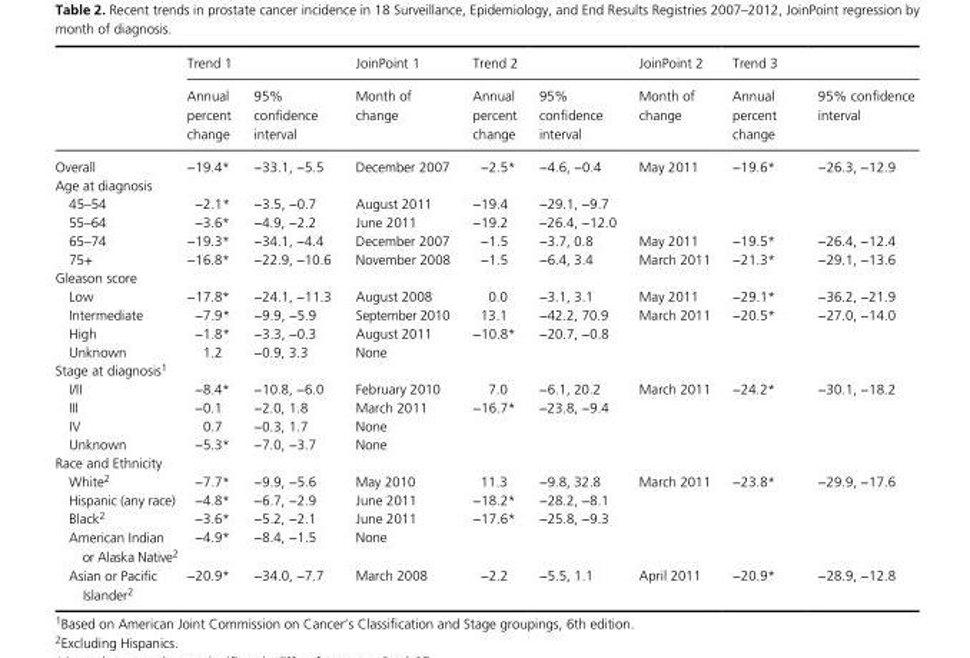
<table><thead><tr><td rowspan="2"></td><td colspan="2">Trend 1</td><td rowspan="2">JoinPoint 1 Month of change</td><td colspan="2">Trend 2</td><td rowspan="2">JoinPoint 2 Month of change</td><td colspan="2">Trend 3</td></tr><tr><td>Annual percent change</td><td>95% confidence interval</td><td>Annual percent change</td><td>95% confidence interval</td><td>Annual percent change</td><td>95% confidence interval</td></tr></thead><tbody><tr><td>Overall</td><td>−19.4*</td><td>−33.1, −5.5</td><td>December 2007</td><td>−2.5*</td><td>−4.6, −0.4</td><td>May 2011</td><td>−19.6*</td><td>−26.3, −12.9</td></tr><tr><td colspan="9">Age at diagnosis</td></tr><tr><td>45–54</td><td>−2.1*</td><td>−3.5, −0.7</td><td>August 2011</td><td>−19.4</td><td>−29.1, −9.7</td><td></td><td></td><td></td></tr><tr><td>55–64</td><td>−3.6*</td><td>−4.9, −2.2</td><td>June 2011</td><td>−19.2</td><td>−26.4, −12.0</td><td></td><td></td><td></td></tr><tr><td>65–74</td><td>−19.3*</td><td>−34.1, −4.4</td><td>December 2007</td><td>−1.5</td><td>−3.7, 0.8</td><td>May 2011</td><td>−19.5*</td><td>−26.4, −12.4</td></tr><tr><td>75+</td><td>−16.8*</td><td>−22.9, −10.6</td><td>November 2008</td><td>−1.5</td><td>−6.4, 3.4</td><td>March 2011</td><td>−21.3*</td><td>−29.1, −13.6</td></tr><tr><td colspan="9">Gleason score</td></tr><tr><td>Low</td><td>−17.8*</td><td>−24.1, −11.3</td><td>August 2008</td><td>0.0</td><td>−3.1, 3.1</td><td>May 2011</td><td>−29.1*</td><td>−36.2, −21.9</td></tr><tr><td>Intermediate</td><td>−7.9*</td><td>−9.9, −5.9</td><td>September 2010</td><td>13.1</td><td>−42.2, 70.9</td><td>March 2011</td><td>−20.5*</td><td>−27.0, −14.0</td></tr><tr><td>High</td><td>−1.8*</td><td>−3.3, −0.3</td><td>August 2011</td><td>−10.8*</td><td>−20.7, −0.8</td><td></td><td></td><td></td></tr><tr><td>Unknown</td><td>1.2</td><td>−0.9, 3.3</td><td>None</td><td></td><td></td><td></td><td></td><td></td></tr><tr><td colspan="9">Stage at diagnosis1</td></tr><tr><td>I/II</td><td>−8.4*</td><td>−10.8, −6.0</td><td>February 2010</td><td>7.0</td><td>−6.1, 20.2</td><td>March 2011</td><td>−24.2*</td><td>−30.1, −18.2</td></tr><tr><td>III</td><td>−0.1</td><td>−2.0, 1.8</td><td>March 2011</td><td>−16.7*</td><td>−23.8, −9.4</td><td></td><td></td><td></td></tr><tr><td>IV</td><td>0.7</td><td>−0.3, 1.7</td><td>None</td><td></td><td></td><td></td><td></td><td></td></tr><tr><td>Unknown</td><td>−5.3*</td><td>−7.0, −3.7</td><td>None</td><td></td><td></td><td></td><td></td><td></td></tr><tr><td colspan="9">Race and Ethnicity</td></tr><tr><td>White2</td><td>−7.7*</td><td>−9.9, −5.6</td><td>May 2010</td><td>11.3</td><td>−9.8, 32.8</td><td>March 2011</td><td>−23.8*</td><td>−29.9, −17.6</td></tr><tr><td>Hispanic (any race)</td><td>−4.8*</td><td>−6.7, −2.9</td><td>June 2011</td><td>−18.2*</td><td>−28.2, −8.1</td><td></td><td></td><td></td></tr><tr><td>Black2</td><td>−3.6*</td><td>−5.2, −2.1</td><td>June 2011</td><td>−17.6*</td><td>−25.8, −9.3</td><td></td><td></td><td></td></tr><tr><td>American Indian or Alaska Native2</td><td>−4.9*</td><td>−8.4, −1.5</td><td>None</td><td></td><td></td><td></td><td></td><td></td></tr><tr><td>Asian or Pacific Islander2</td><td>−20.9*</td><td>−34.0, −7.7</td><td>March 2008</td><td>−2.2</td><td>−5.5, 1.1</td><td>April 2011</td><td>−20.9*</td><td>−28.9, −12.8</td></tr></tbody></table>